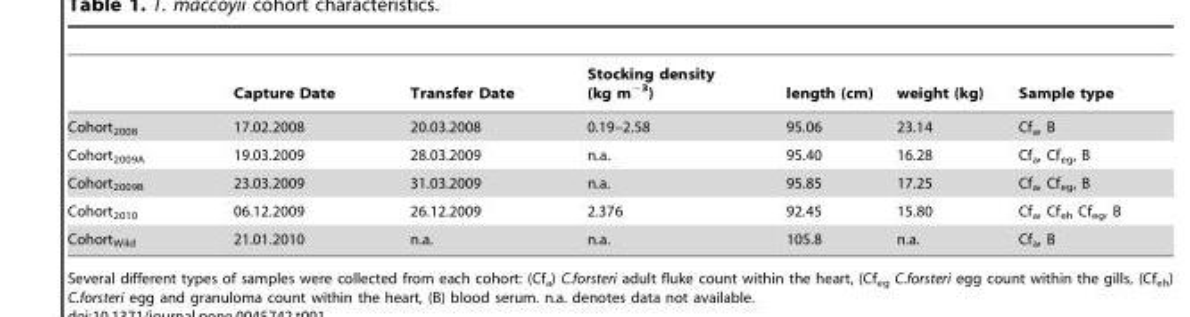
<table><thead><tr><td></td><td>Capture Date</td><td>Transfer Date</td><td>Stocking density (kg m<sup>−3</sup>)</td><td>length (cm)</td><td>weight (kg)</td><td>Sample type</td></tr></thead><tbody><tr><td>Cohort<sub>2008</sub></td><td>17.02.2008</td><td>20.03.2008</td><td>0.19–2.58</td><td>95.06</td><td>23.14</td><td>Cf<sub>a</sub>, B</td></tr><tr><td>Cohort<sub>2009A</sub></td><td>19.03.2009</td><td>28.03.2009</td><td>n.a.</td><td>95.40</td><td>16.28</td><td>Cf<sub>a</sub>, Cf<sub>eg</sub>, B</td></tr><tr><td>Cohort<sub>2009B</sub></td><td>23.03.2009</td><td>31.03.2009</td><td>n.a.</td><td>95.85</td><td>17.25</td><td>Cf<sub>a</sub>, Cf<sub>eg</sub>, B</td></tr><tr><td>Cohort<sub>2010</sub></td><td>06.12.2009</td><td>26.12.2009</td><td>2.376</td><td>92.45</td><td>15.80</td><td>Cf<sub>a</sub>, Cf<sub>eh</sub> Cf<sub>eg</sub>, B</td></tr><tr><td>Cohort<sub>Wild</sub></td><td>21.01.2010</td><td>n.a.</td><td>n.a.</td><td>105.8</td><td>n.a.</td><td>Cf<sub>a</sub>, B</td></tr></tbody></table>